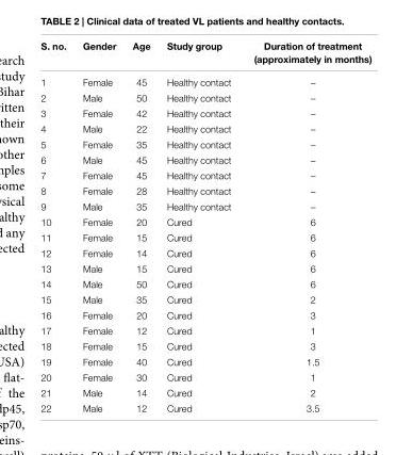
<table><thead><tr><td>S. no.</td><td>Gender</td><td>Age</td><td>Study group</td><td>Duration of treatment (approximately in months)</td></tr></thead><tbody><tr><td>1</td><td>Female</td><td>45</td><td>Healthy contact</td><td>–</td></tr><tr><td>2</td><td>Male</td><td>50</td><td>Healthy contact</td><td>–</td></tr><tr><td>3</td><td>Female</td><td>42</td><td>Healthy contact</td><td>–</td></tr><tr><td>4</td><td>Male</td><td>22</td><td>Healthy contact</td><td>–</td></tr><tr><td>5</td><td>Female</td><td>35</td><td>Healthy contact</td><td>–</td></tr><tr><td>6</td><td>Male</td><td>45</td><td>Healthy contact</td><td>–</td></tr><tr><td>7</td><td>Female</td><td>45</td><td>Healthy contact</td><td>–</td></tr><tr><td>8</td><td>Female</td><td>28</td><td>Healthy contact</td><td>–</td></tr><tr><td>9</td><td>Male</td><td>35</td><td>Healthy contact</td><td>–</td></tr><tr><td>10</td><td>Female</td><td>20</td><td>Cured</td><td>6</td></tr><tr><td>11</td><td>Female</td><td>15</td><td>Cured</td><td>6</td></tr><tr><td>12</td><td>Female</td><td>14</td><td>Cured</td><td>6</td></tr><tr><td>13</td><td>Male</td><td>15</td><td>Cured</td><td>6</td></tr><tr><td>14</td><td>Male</td><td>50</td><td>Cured</td><td>6</td></tr><tr><td>15</td><td>Male</td><td>35</td><td>Cured</td><td>2</td></tr><tr><td>16</td><td>Female</td><td>20</td><td>Cured</td><td>3</td></tr><tr><td>17</td><td>Female</td><td>12</td><td>Cured</td><td>1</td></tr><tr><td>18</td><td>Female</td><td>15</td><td>Cured</td><td>3</td></tr><tr><td>19</td><td>Female</td><td>40</td><td>Cured</td><td>1.5</td></tr><tr><td>20</td><td>Female</td><td>30</td><td>Cured</td><td>1</td></tr><tr><td>21</td><td>Male</td><td>14</td><td>Cured</td><td>2</td></tr><tr><td>22</td><td>Male</td><td>12</td><td>Cured</td><td>3.5</td></tr></tbody></table>